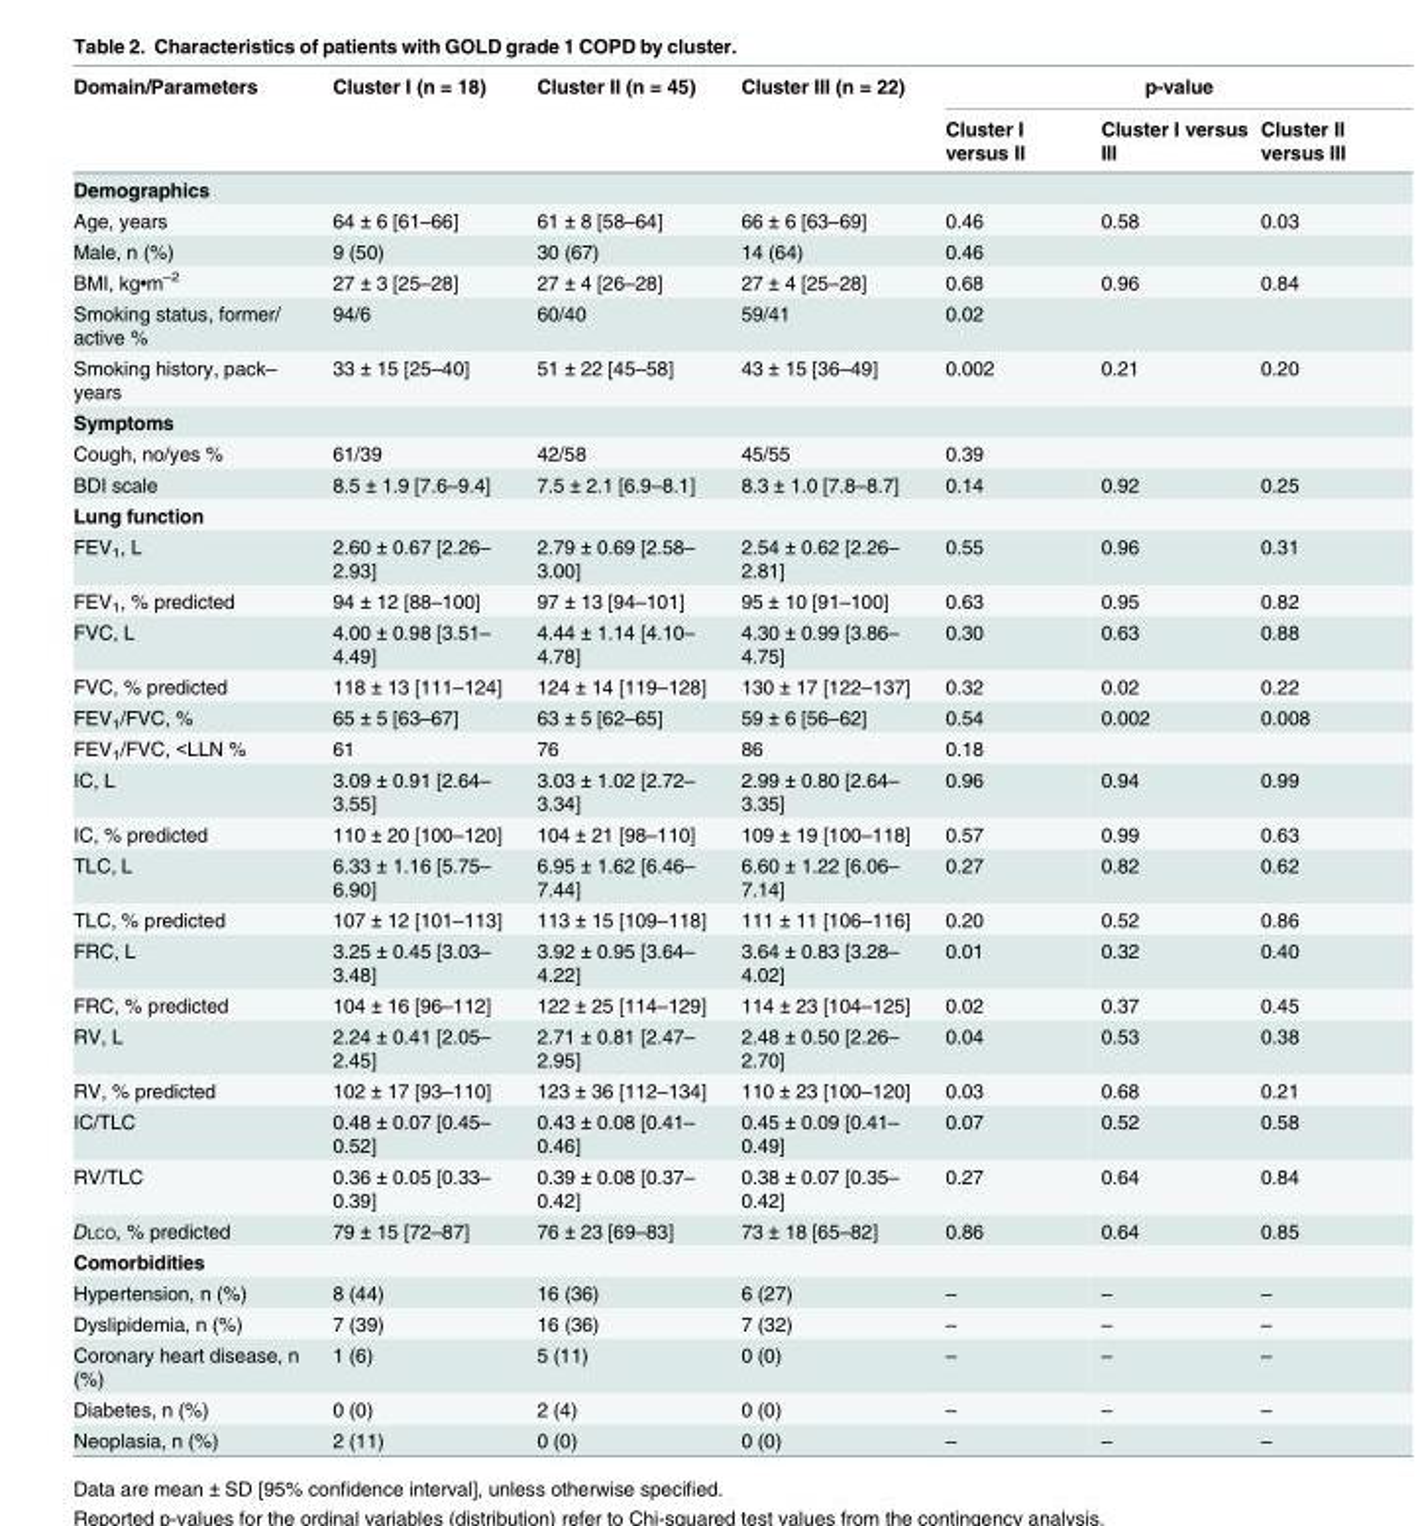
<table><thead><tr><td rowspan="2">Domain/Parameters</td><td rowspan="2">Cluster I (n = 18)</td><td rowspan="2">Cluster II (n = 45)</td><td rowspan="2">Cluster III (n = 22)</td><td colspan="3">p-value</td></tr><tr><td>Cluster I versus II</td><td>Cluster I versus III</td><td>Cluster II versus III</td></tr></thead><tbody><tr><td colspan="7">Demographics</td></tr><tr><td>Age, years</td><td>64 ± 6 [61–66]</td><td>61 ± 8 [58–64]</td><td>66 ± 6 [63–69]</td><td>0.46</td><td>0.58</td><td>0.03</td></tr><tr><td>Male, n (%)</td><td>9 (50)</td><td>30 (67)</td><td>14 (64)</td><td colspan="3">0.46</td></tr><tr><td>BMI, kg•m<sup>–2</sup></td><td>27 ± 3 [25–28]</td><td>27 ± 4 [26–28]</td><td>27 ± 4 [25–28]</td><td>0.68</td><td>0.96</td><td>0.84</td></tr><tr><td>Smoking status, former/ active %</td><td>94/6</td><td>60/40</td><td>59/41</td><td colspan="3">0.02</td></tr><tr><td>Smoking history, pack– years</td><td>33 ± 15 [25–40]</td><td>51 ± 22 [45–58]</td><td>43 ± 15 [36–49]</td><td>0.002</td><td>0.21</td><td>0.20</td></tr><tr><td colspan="7">Symptoms</td></tr><tr><td>Cough, no/yes %</td><td>61/39</td><td>42/58</td><td>45/55</td><td colspan="3">0.39</td></tr><tr><td>BDI scale</td><td>8.5 ± 1.9 [7.6–9.4]</td><td>7.5 ± 2.1 [6.9–8.1]</td><td>8.3 ± 1.0 [7.8–8.7]</td><td>0.14</td><td>0.92</td><td>0.25</td></tr><tr><td colspan="7">Lung function</td></tr><tr><td>FEV<sub>1</sub>, L</td><td>2.60 ± 0.67 [2.26– 2.93]</td><td>2.79 ± 0.69 [2.58– 3.00]</td><td>2.54 ± 0.62 [2.26– 2.81]</td><td>0.55</td><td>0.96</td><td>0.31</td></tr><tr><td>FEV<sub>1</sub>, % predicted</td><td>94 ± 12 [88–100]</td><td>97 ± 13 [94–101]</td><td>95 ± 10 [91–100]</td><td>0.63</td><td>0.95</td><td>0.82</td></tr><tr><td>FVC, L</td><td>4.00 ± 0.98 [3.51– 4.49]</td><td>4.44 ± 1.14 [4.10– 4.78]</td><td>4.30 ± 0.99 [3.86– 4.75]</td><td>0.30</td><td>0.63</td><td>0.88</td></tr><tr><td>FVC, % predicted</td><td>118 ± 13 [111–124]</td><td>124 ± 14 [119–128]</td><td>130 ± 17 [122–137]</td><td>0.32</td><td>0.02</td><td>0.22</td></tr><tr><td>FEV<sub>1</sub>/FVC, %</td><td>65 ± 5 [63–67]</td><td>63 ± 5 [62–65]</td><td>59 ± 6 [56–62]</td><td>0.54</td><td>0.002</td><td>0.008</td></tr><tr><td>FEV<sub>1</sub>/FVC, &lt;LLN %</td><td>61</td><td>76</td><td>86</td><td colspan="3">0.18</td></tr><tr><td>IC, L</td><td>3.09 ± 0.91 [2.64– 3.55]</td><td>3.03 ± 1.02 [2.72– 3.34]</td><td>2.99 ± 0.80 [2.64– 3.35]</td><td>0.96</td><td>0.94</td><td>0.99</td></tr><tr><td>IC, % predicted</td><td>110 ± 20 [100–120]</td><td>104 ± 21 [98–110]</td><td>109 ± 19 [100–118]</td><td>0.57</td><td>0.99</td><td>0.63</td></tr><tr><td>TLC, L</td><td>6.33 ± 1.16 [5.75– 6.90]</td><td>6.95 ± 1.62 [6.46– 7.44]</td><td>6.60 ± 1.22 [6.06– 7.14]</td><td>0.27</td><td>0.82</td><td>0.62</td></tr><tr><td>TLC, % predicted</td><td>107 ± 12 [101–113]</td><td>113 ± 15 [109–118]</td><td>111 ± 11 [106–116]</td><td>0.20</td><td>0.52</td><td>0.86</td></tr><tr><td>FRC, L</td><td>3.25 ± 0.45 [3.03– 3.48]</td><td>3.92 ± 0.95 [3.64– 4.22]</td><td>3.64 ± 0.83 [3.28– 4.02]</td><td>0.01</td><td>0.32</td><td>0.40</td></tr><tr><td>FRC, % predicted</td><td>104 ± 16 [96–112]</td><td>122 ± 25 [114–129]</td><td>114 ± 23 [104–125]</td><td>0.02</td><td>0.37</td><td>0.45</td></tr><tr><td>RV, L</td><td>2.24 ± 0.41 [2.05– 2.45]</td><td>2.71 ± 0.81 [2.47– 2.95]</td><td>2.48 ± 0.50 [2.26– 2.70]</td><td>0.04</td><td>0.53</td><td>0.38</td></tr><tr><td>RV, % predicted</td><td>102 ± 17 [93–110]</td><td>123 ± 36 [112–134]</td><td>110 ± 23 [100–120]</td><td>0.03</td><td>0.68</td><td>0.21</td></tr><tr><td>IC/TLC</td><td>0.48 ± 0.07 [0.45– 0.52]</td><td>0.43 ± 0.08 [0.41– 0.46]</td><td>0.45 ± 0.09 [0.41– 0.49]</td><td>0.07</td><td>0.52</td><td>0.58</td></tr><tr><td>RV/TLC</td><td>0.36 ± 0.05 [0.33– 0.39]</td><td>0.39 ± 0.08 [0.37– 0.42]</td><td>0.38 ± 0.07 [0.35– 0.42]</td><td>0.27</td><td>0.64</td><td>0.84</td></tr><tr><td>DLCO, % predicted</td><td>79 ± 15 [72–87]</td><td>76 ± 23 [69–83]</td><td>73 ± 18 [65–82]</td><td>0.86</td><td>0.64</td><td>0.85</td></tr><tr><td colspan="7">Comorbidities</td></tr><tr><td>Hypertension, n (%)</td><td>8 (44)</td><td>16 (36)</td><td>6 (27)</td><td>–</td><td>–</td><td>–</td></tr><tr><td>Dyslipidemia, n (%)</td><td>7 (39)</td><td>16 (36)</td><td>7 (32)</td><td>–</td><td>–</td><td>–</td></tr><tr><td>Coronary heart disease, n (%)</td><td>1 (6)</td><td>5 (11)</td><td>0 (0)</td><td>–</td><td>–</td><td>–</td></tr><tr><td>Diabetes, n (%)</td><td>0 (0)</td><td>2 (4)</td><td>0 (0)</td><td>–</td><td>–</td><td>–</td></tr><tr><td>Neoplasia, n (%)</td><td>2 (11)</td><td>0 (0)</td><td>0 (0)</td><td>–</td><td>–</td><td>–</td></tr></tbody></table>